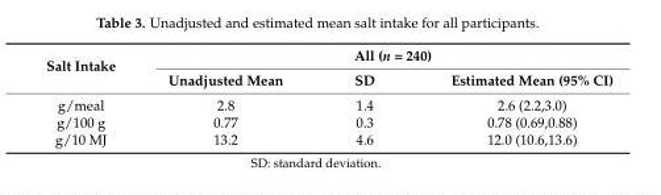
<table><thead><tr><td rowspan="2">Salt Intake</td><td colspan="3">All (n = 240)</td></tr><tr><td>Unadjusted Mean</td><td>SD</td><td>Estimated Mean (95% CI)</td></tr></thead><tbody><tr><td>g/meal</td><td>2.8</td><td>1.4</td><td>2.6 (2.2,3.0)</td></tr><tr><td>g/100 g</td><td>0.77</td><td>0.3</td><td>0.78 (0.69,0.88)</td></tr><tr><td>g/10 MJ</td><td>13.2</td><td>4.6</td><td>12.0 (10.6,13.6)</td></tr></tbody></table>